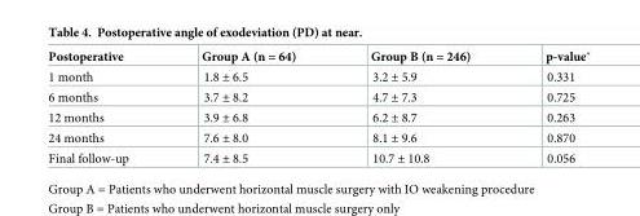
<table><thead><tr><td>Postoperative</td><td>Group A (n = 64)</td><td>Group B (n = 246)</td><td>p-value*</td></tr></thead><tbody><tr><td>1 month</td><td>1.8 ± 6.5</td><td>3.2 ± 5.9</td><td>0.331</td></tr><tr><td>6 months</td><td>3.7 ± 8.2</td><td>4.7 ± 7.3</td><td>0.725</td></tr><tr><td>12 months</td><td>3.9 ± 6.8</td><td>6.2 ± 8.7</td><td>0.263</td></tr><tr><td>24 months</td><td>7.6 ± 8.0</td><td>8.1 ± 9.6</td><td>0.870</td></tr><tr><td>Final follow-up</td><td>7.4 ± 8.5</td><td>10.7 ± 10.8</td><td>0.056</td></tr></tbody></table>